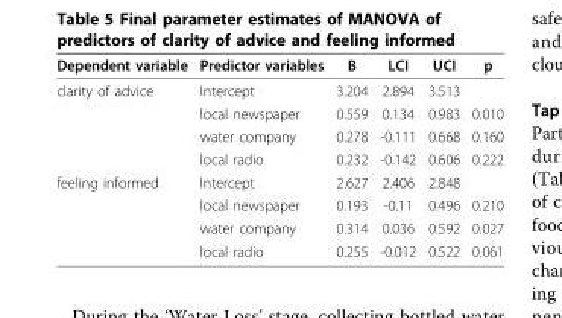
<table><thead><tr><td>Dependent variable</td><td>Predictor variables</td><td>B</td><td>LCI</td><td>UCI</td><td>p</td></tr></thead><tbody><tr><td rowspan="4">clarity of advice</td><td>Intercept</td><td>3.204</td><td>2.894</td><td>3.513</td><td></td></tr><tr><td>local newspaper</td><td>0.559</td><td>0.134</td><td>0.983</td><td>0.010</td></tr><tr><td>water company</td><td>0.278</td><td>-0.111</td><td>0.668</td><td>0.160</td></tr><tr><td>local radio</td><td>0.232</td><td>-0.142</td><td>0.606</td><td>0.222</td></tr><tr><td rowspan="4">feeling informed</td><td>Intercept</td><td>2.627</td><td>2.406</td><td>2.848</td><td></td></tr><tr><td>local newspaper</td><td>0.193</td><td>-0.11</td><td>0.496</td><td>0.210</td></tr><tr><td>water company</td><td>0.314</td><td>0.036</td><td>0.592</td><td>0.027</td></tr><tr><td>local radio</td><td>0.255</td><td>-0.012</td><td>0.522</td><td>0.061</td></tr></tbody></table>